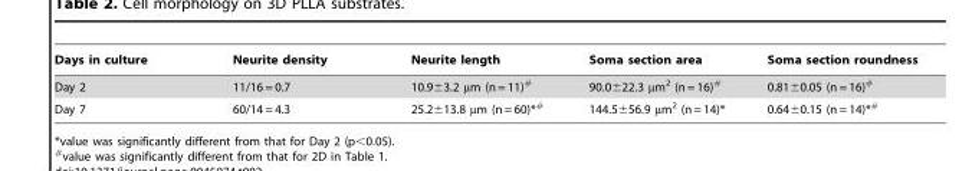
<table><thead><tr><td>Days in culture</td><td>Neurite density</td><td>Neurite length</td><td>Soma section area</td><td>Soma section roundness</td></tr></thead><tbody><tr><td>Day 2</td><td>11/16 = 0.7</td><td>10.9±3.2 µm (n = 11)#</td><td>90.0±22.3 µm<sup>2</sup> (n = 16)#</td><td>0.81±0.05 (n = 16)#</td></tr><tr><td>Day 7</td><td>60/14 = 4.3</td><td>25.2±13.8 µm (n = 60)*#</td><td>144.5±56.9 µm<sup>2</sup> (n = 14)*</td><td>0.64±0.15 (n = 14)*#</td></tr></tbody></table>